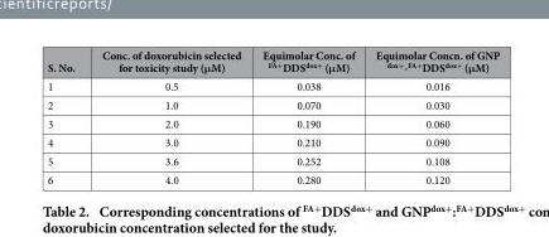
<table><thead><tr><td>S. No.</td><td>Conc. of doxorubicin selected for toxicity study (μM)</td><td>Equimolar Conc. of <sup>FA+</sup>DDS<sup>dox+</sup> (μM)</td><td>Equimolar Concn. of GNP <sup>dox+</sup>-<sup>FA+</sup>DDS<sup>dox+</sup> (μM)</td></tr></thead><tbody><tr><td>1</td><td>0.5</td><td>0.038</td><td>0.016</td></tr><tr><td>2</td><td>1.0</td><td>0.070</td><td>0.030</td></tr><tr><td>3</td><td>2.0</td><td>0.190</td><td>0.060</td></tr><tr><td>4</td><td>3.0</td><td>0.210</td><td>0.090</td></tr><tr><td>5</td><td>3.6</td><td>0.252</td><td>0.108</td></tr><tr><td>6</td><td>4.0</td><td>0.280</td><td>0.120</td></tr></tbody></table>